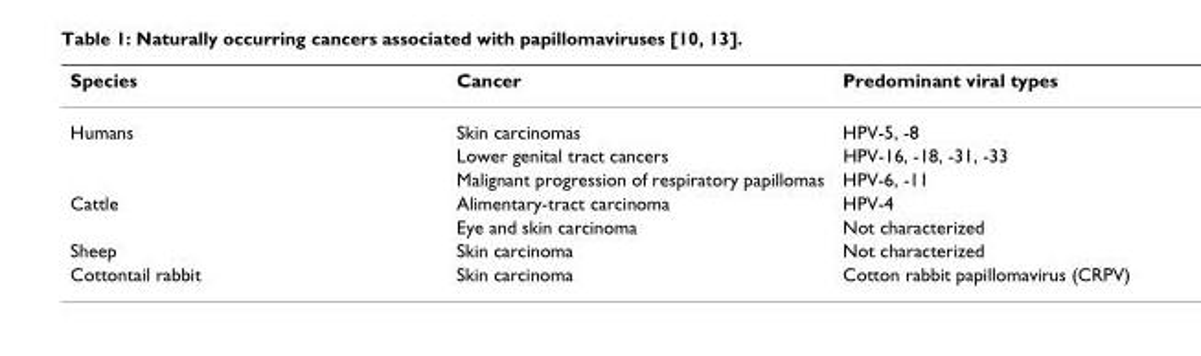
<table><thead><tr><td>Species</td><td>Cancer</td><td>Predominant viral types</td></tr></thead><tbody><tr><td rowspan="3">Humans</td><td>Skin carcinomas</td><td>HPV-5, -8</td></tr><tr><td>Lower genital tract cancers</td><td>HPV-16, -18, -31, -33</td></tr><tr><td>Malignant progression of respiratory papillomas</td><td>HPV-6, -11</td></tr><tr><td rowspan="2">Cattle</td><td>Alimentary-tract carcinoma</td><td>HPV-4</td></tr><tr><td>Eye and skin carcinoma</td><td>Not characterized</td></tr><tr><td>Sheep</td><td>Skin carcinoma</td><td>Not characterized</td></tr><tr><td>Cottontail rabbit</td><td>Skin carcinoma</td><td>Cotton rabbit papillomavirus (CRPV)</td></tr></tbody></table>